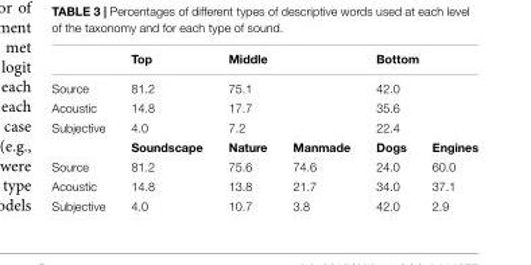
<table><thead><tr><td></td><td>Top</td><td colspan="2">Middle</td><td colspan="2">Bottom</td></tr></thead><tbody><tr><td>Source</td><td>81.2</td><td colspan="2">75.1</td><td colspan="2">42.0</td></tr><tr><td>Acoustic</td><td>14.8</td><td colspan="2">17.7</td><td colspan="2">35.6</td></tr><tr><td rowspan="2">Subjective</td><td>4.0</td><td colspan="2">7.2</td><td colspan="2">22.4</td></tr><tr><td>Soundscape</td><td>Nature</td><td>Manmade</td><td>Dogs</td><td>Engines</td></tr><tr><td>Source</td><td>81.2</td><td>75.6</td><td>74.6</td><td>24.0</td><td>60.0</td></tr><tr><td>Acoustic</td><td>14.8</td><td>13.8</td><td>21.7</td><td>34.0</td><td>37.1</td></tr><tr><td>Subjective</td><td>4.0</td><td>10.7</td><td>3.8</td><td>42.0</td><td>2.9</td></tr></tbody></table>